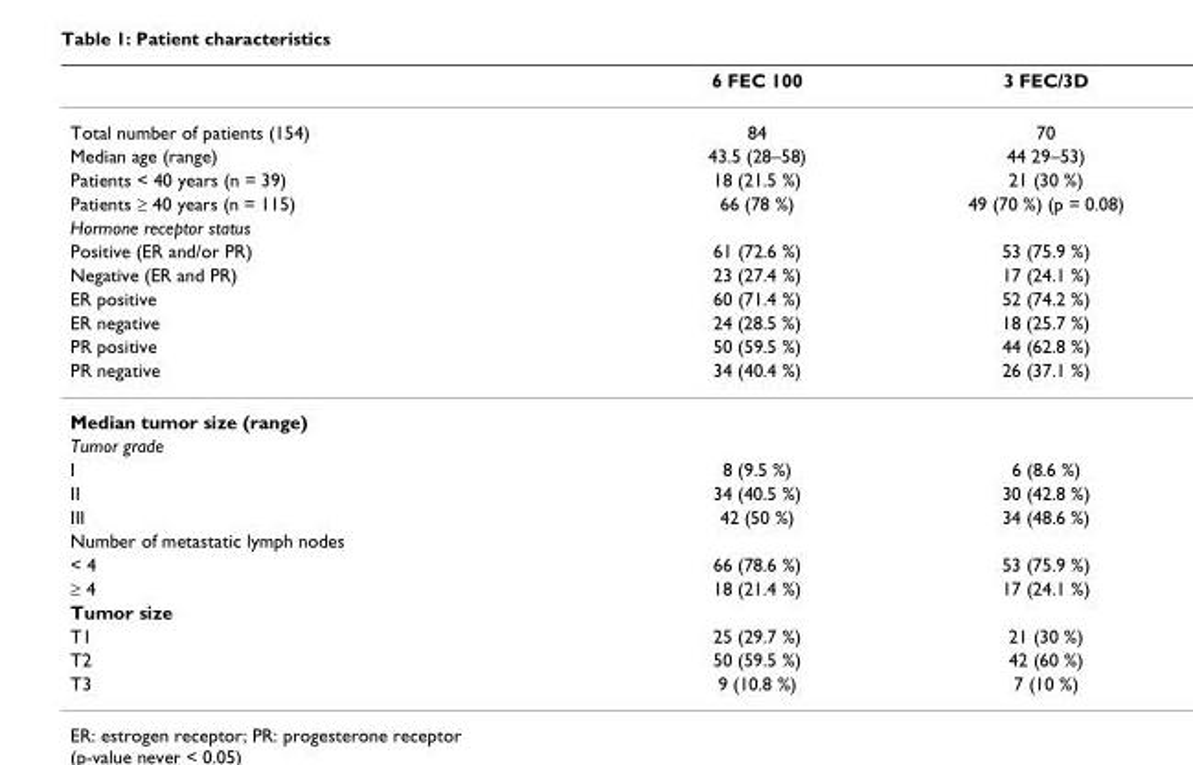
<table><thead><tr><td></td><td>6 FEC 100</td><td>3 FEC/3D</td></tr></thead><tbody><tr><td>Total number of patients (154)</td><td>84</td><td>70</td></tr><tr><td>Median age (range)</td><td>43.5 (28–58)</td><td>44 29–53)</td></tr><tr><td>Patients &lt; 40 years (n = 39)</td><td>18 (21.5 %)</td><td>21 (30 %)</td></tr><tr><td>Patients ≥ 40 years (n = 115)</td><td>66 (78 %)</td><td>49 (70 %) (p = 0.08)</td></tr><tr><td colspan="3">Hormone receptor status</td></tr><tr><td>Positive (ER and/or PR)</td><td>61 (72.6 %)</td><td>53 (75.9 %)</td></tr><tr><td>Negative (ER and PR)</td><td>23 (27.4 %)</td><td>17 (24.1 %)</td></tr><tr><td>ER positive</td><td>60 (71.4 %)</td><td>52 (74.2 %)</td></tr><tr><td>ER negative</td><td>24 (28.5 %)</td><td>18 (25.7 %)</td></tr><tr><td>PR positive</td><td>50 (59.5 %)</td><td>44 (62.8 %)</td></tr><tr><td>PR negative</td><td>34 (40.4 %)</td><td>26 (37.1 %)</td></tr><tr><td colspan="3">Median tumor size (range)</td></tr><tr><td colspan="3">Tumor grade</td></tr><tr><td>I</td><td>8 (9.5 %)</td><td>6 (8.6 %)</td></tr><tr><td>II</td><td>34 (40.5 %)</td><td>30 (42.8 %)</td></tr><tr><td>III</td><td>42 (50 %)</td><td>34 (48.6 %)</td></tr><tr><td colspan="3">Number of metastatic lymph nodes</td></tr><tr><td>&lt; 4</td><td>66 (78.6 %)</td><td>53 (75.9 %)</td></tr><tr><td>≥ 4</td><td>18 (21.4 %)</td><td>17 (24.1 %)</td></tr><tr><td colspan="3">Tumor size</td></tr><tr><td>T1</td><td>25 (29.7 %)</td><td>21 (30 %)</td></tr><tr><td>T2</td><td>50 (59.5 %)</td><td>42 (60 %)</td></tr><tr><td>T3</td><td>9 (10.8 %)</td><td>7 (10 %)</td></tr></tbody></table>